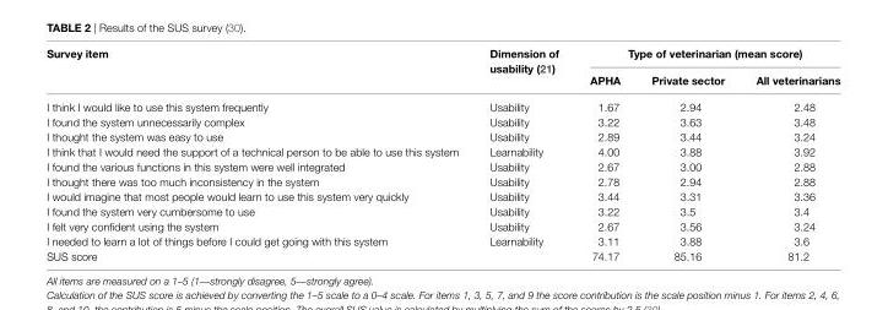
<table><thead><tr><td rowspan="2">survey item</td><td rowspan="2">Dimension of usability (21)</td><td colspan="3">Type of veterinarian (mean score)</td></tr><tr><td>aPha</td><td>Private sector</td><td>all veterinarians</td></tr></thead><tbody><tr><td>I think I would like to use this system frequently</td><td>Usability</td><td>1.67</td><td>2.94</td><td>2.48</td></tr><tr><td>I found the system unnecessarily complex</td><td>Usability</td><td>3.22</td><td>3.63</td><td>3.48</td></tr><tr><td>I thought the system was easy to use</td><td>Usability</td><td>2.89</td><td>3.44</td><td>3.24</td></tr><tr><td>I think that I would need the support of a technical person to be able to use this system</td><td>Learnability</td><td>4.00</td><td>3.88</td><td>3.92</td></tr><tr><td>I found the various functions in this system were well integrated</td><td>Usability</td><td>2.67</td><td>3.00</td><td>2.88</td></tr><tr><td>I thought there was too much inconsistency in the system</td><td>Usability</td><td>2.78</td><td>2.94</td><td>2.88</td></tr><tr><td>I would imagine that most people would learn to use this system very quickly</td><td>Usability</td><td>3.44</td><td>3.31</td><td>3.36</td></tr><tr><td>I found the system very cumbersome to use</td><td>Usability</td><td>3.22</td><td>3.5</td><td>3.4</td></tr><tr><td>I felt very confident using the system</td><td>Usability</td><td>2.67</td><td>3.56</td><td>3.24</td></tr><tr><td>I needed to learn a lot of things before I could get going with this system</td><td>Learnability</td><td>3.11</td><td>3.88</td><td>3.6</td></tr><tr><td>SUS score</td><td></td><td>74.17</td><td>85.16</td><td>81.2</td></tr></tbody></table>